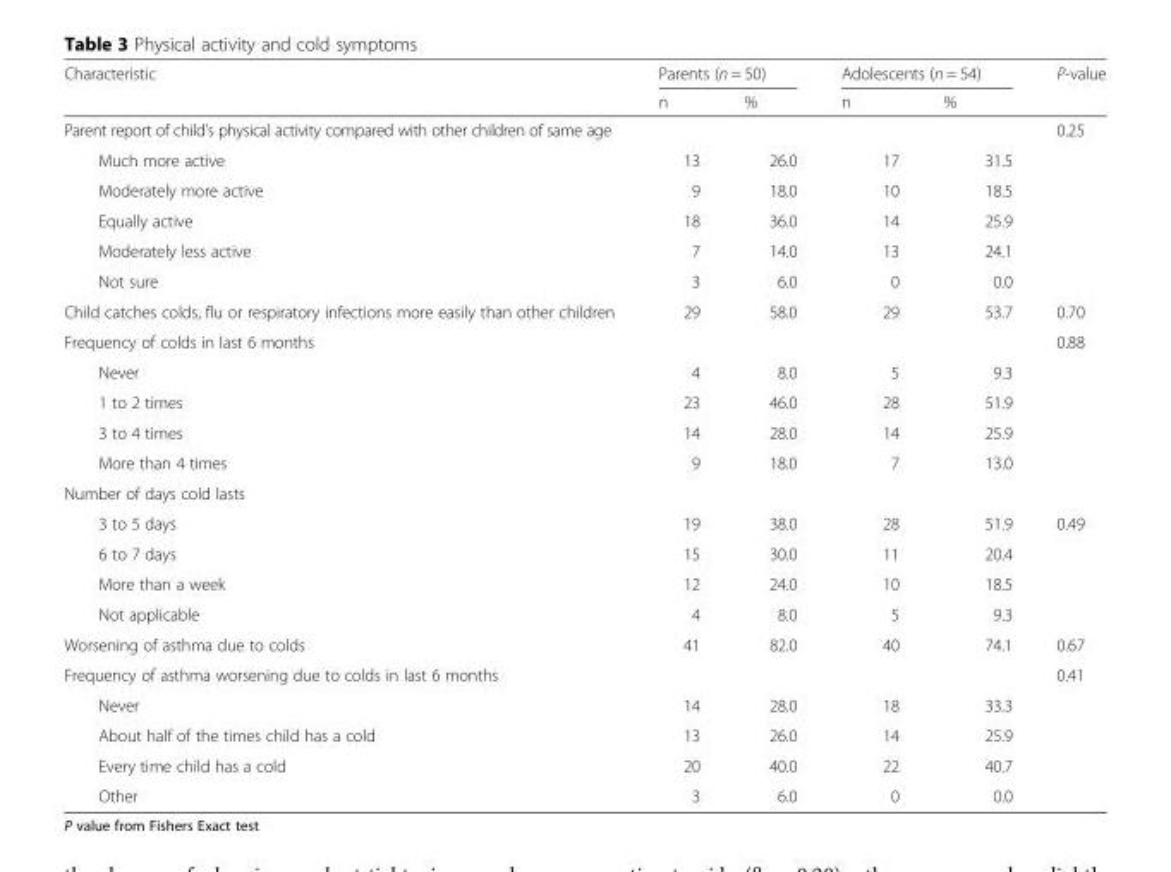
<table><thead><tr><td rowspan="2">Characteristic</td><td colspan="2">Parents (n = 50)</td><td colspan="2">Adolescents (n = 54)</td><td rowspan="2">P-value</td></tr><tr><td>n</td><td>%</td><td>n</td><td>%</td></tr></thead><tbody><tr><td colspan="5">Parent report of child’s physical activity compared with other children of same age</td><td>0.25</td></tr><tr><td>Much more active</td><td>13</td><td>26.0</td><td>17</td><td>31.5</td><td></td></tr><tr><td>Moderately more active</td><td>9</td><td>18.0</td><td>10</td><td>18.5</td><td></td></tr><tr><td>Equally active</td><td>18</td><td>36.0</td><td>14</td><td>25.9</td><td></td></tr><tr><td>Moderately less active</td><td>7</td><td>14.0</td><td>13</td><td>24.1</td><td></td></tr><tr><td>Not sure</td><td>3</td><td>6.0</td><td>0</td><td>0.0</td><td></td></tr><tr><td>Child catches colds, flu or respiratory infections more easily than other children</td><td>29</td><td>58.0</td><td>29</td><td>53.7</td><td>0.70</td></tr><tr><td colspan="5">Frequency of colds in last 6 months</td><td>0.88</td></tr><tr><td>Never</td><td>4</td><td>8.0</td><td>5</td><td>9.3</td><td></td></tr><tr><td>1 to 2 times</td><td>23</td><td>46.0</td><td>28</td><td>51.9</td><td></td></tr><tr><td>3 to 4 times</td><td>14</td><td>28.0</td><td>14</td><td>25.9</td><td></td></tr><tr><td>More than 4 times</td><td>9</td><td>18.0</td><td>7</td><td>13.0</td><td></td></tr><tr><td colspan="6">Number of days cold lasts</td></tr><tr><td>3 to 5 days</td><td>19</td><td>38.0</td><td>28</td><td>51.9</td><td>0.49</td></tr><tr><td>6 to 7 days</td><td>15</td><td>30.0</td><td>11</td><td>20.4</td><td></td></tr><tr><td>More than a week</td><td>12</td><td>24.0</td><td>10</td><td>18.5</td><td></td></tr><tr><td>Not applicable</td><td>4</td><td>8.0</td><td>5</td><td>9.3</td><td></td></tr><tr><td>Worsening of asthma due to colds</td><td>41</td><td>82.0</td><td>40</td><td>74.1</td><td>0.67</td></tr><tr><td colspan="5">Frequency of asthma worsening due to colds in last 6 months</td><td>0.41</td></tr><tr><td>Never</td><td>14</td><td>28.0</td><td>18</td><td>33.3</td><td></td></tr><tr><td>About half of the times child has a cold</td><td>13</td><td>26.0</td><td>14</td><td>25.9</td><td></td></tr><tr><td>Every time child has a cold</td><td>20</td><td>40.0</td><td>22</td><td>40.7</td><td></td></tr><tr><td>Other</td><td>3</td><td>6.0</td><td>0</td><td>0.0</td><td></td></tr></tbody></table>